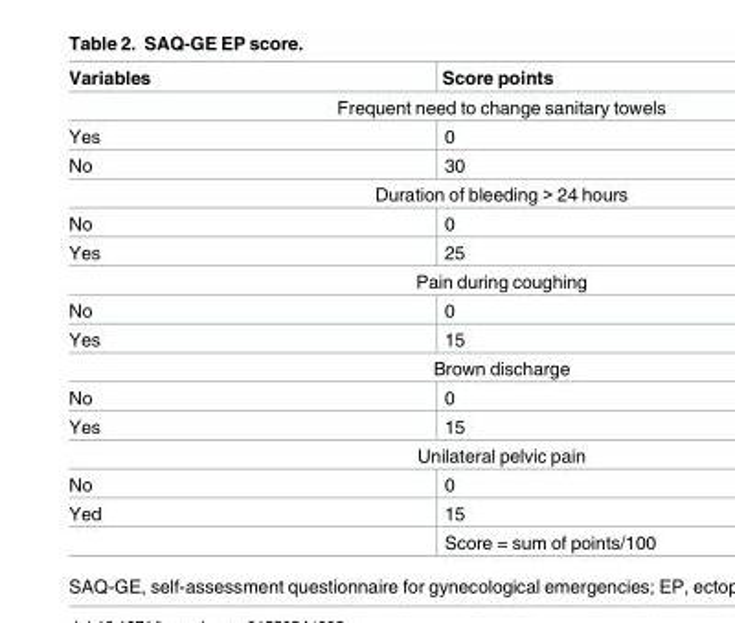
<table><thead><tr><td>Variables</td><td>Score points</td></tr></thead><tbody><tr><td colspan="2">Frequent need to change sanitary towels</td></tr><tr><td>Yes</td><td>0</td></tr><tr><td>No</td><td>30</td></tr><tr><td colspan="2">Duration of bleeding &gt; 24 hours</td></tr><tr><td>No</td><td>0</td></tr><tr><td>Yes</td><td>25</td></tr><tr><td colspan="2">Pain during coughing</td></tr><tr><td>No</td><td>0</td></tr><tr><td>Yes</td><td>15</td></tr><tr><td colspan="2">Brown discharge</td></tr><tr><td>No</td><td>0</td></tr><tr><td>Yes</td><td>15</td></tr><tr><td colspan="2">Unilateral pelvic pain</td></tr><tr><td>No</td><td>0</td></tr><tr><td rowspan="2">Yed</td><td>15</td></tr><tr><td>Score = sum of points/100</td></tr></tbody></table>